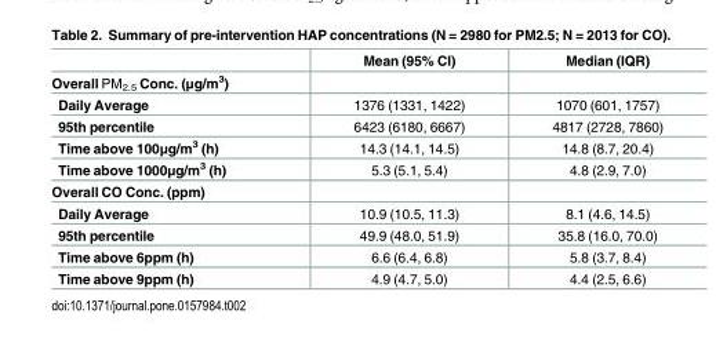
<table><thead><tr><td></td><td>Mean (95% CI)</td><td>Median (IQR)</td></tr></thead><tbody><tr><td colspan="3">Overall PM<sub>2.5</sub> Conc. (μg/m<sup>3</sup>)</td></tr><tr><td>Daily Average</td><td>1376 (1331, 1422)</td><td>1070 (601, 1757)</td></tr><tr><td>95th percentile</td><td>6423 (6180, 6667)</td><td>4817 (2728, 7860)</td></tr><tr><td>Time above 100μg/m<sup>3</sup> (h)</td><td>14.3 (14.1, 14.5)</td><td>14.8 (8.7, 20.4)</td></tr><tr><td>Time above 1000μg/m<sup>3</sup> (h)</td><td>5.3 (5.1, 5.4)</td><td>4.8 (2.9, 7.0)</td></tr><tr><td colspan="3">Overall CO Conc. (ppm)</td></tr><tr><td>Daily Average</td><td>10.9 (10.5, 11.3)</td><td>8.1 (4.6, 14.5)</td></tr><tr><td>95th percentile</td><td>49.9 (48.0, 51.9)</td><td>35.8 (16.0, 70.0)</td></tr><tr><td>Time above 6ppm (h)</td><td>6.6 (6.4, 6.8)</td><td>5.8 (3.7, 8.4)</td></tr><tr><td>Time above 9ppm (h)</td><td>4.9 (4.7, 5.0)</td><td>4.4 (2.5, 6.6)</td></tr></tbody></table>